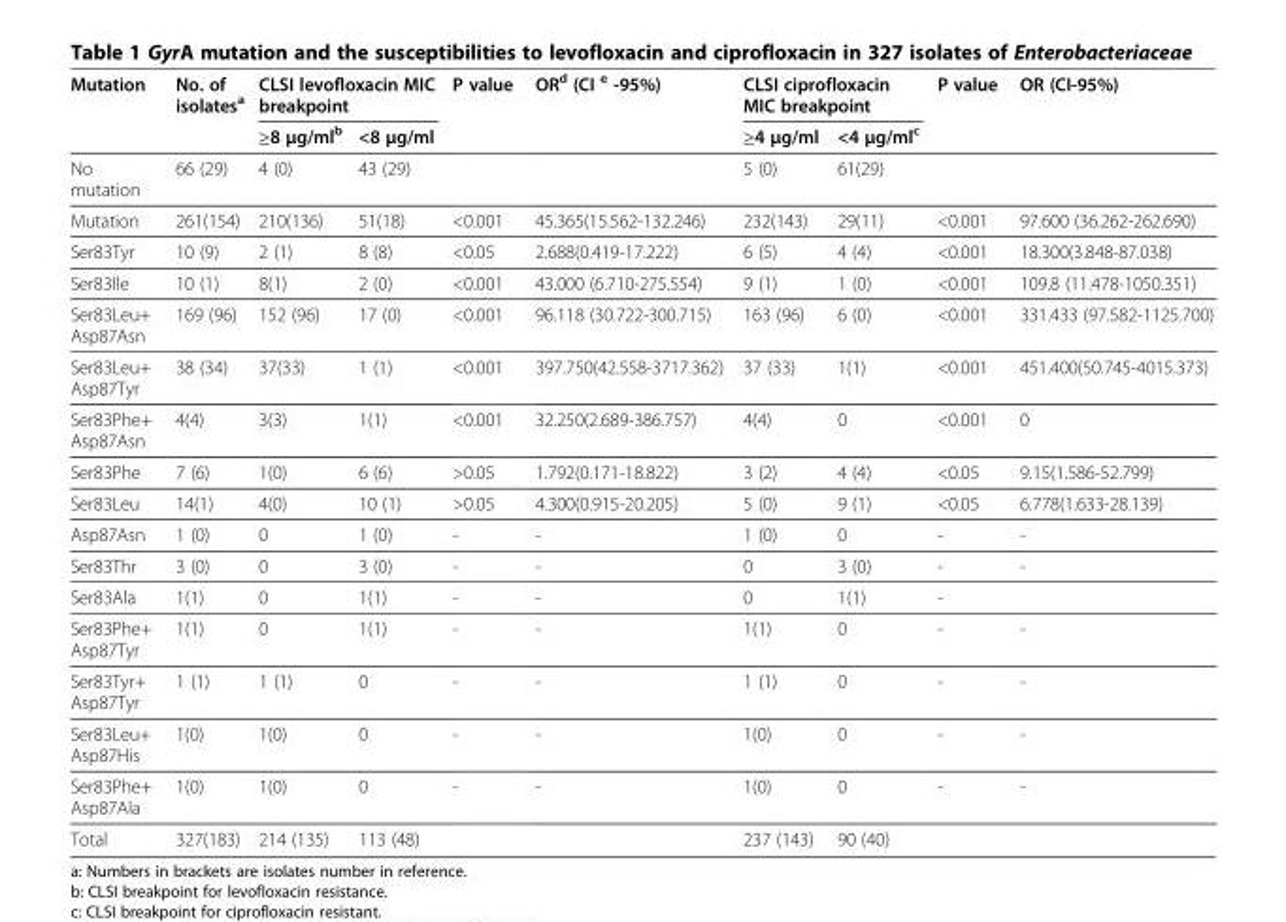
<table><thead><tr><td rowspan="2">Mutation</td><td rowspan="2">No. of isolates<sup>a</sup></td><td colspan="2">CLSI levofloxacin MIC breakpoint</td><td rowspan="2">P value</td><td rowspan="2">OR<sup>d</sup> (CI <sup>e</sup> -95%)</td><td colspan="2">CLSI ciprofloxacin MIC breakpoint</td><td rowspan="2">P value</td><td rowspan="2">OR (CI-95%)</td></tr><tr><td>≥8 μg/ml<sup>b</sup></td><td>&lt;8 μg/ml</td><td>≥4 μg/ml</td><td>&lt;4 μg/ml<sup>c</sup></td></tr></thead><tbody><tr><td>No mutation</td><td>66 (29)</td><td>4 (0)</td><td>43 (29)</td><td></td><td></td><td>5 (0)</td><td>61(29)</td><td></td><td></td></tr><tr><td>Mutation</td><td>261(154)</td><td>210(136)</td><td>51(18)</td><td>&lt;0.001</td><td>45.365(15.562-132.246)</td><td>232(143)</td><td>29(11)</td><td>&lt;0.001</td><td>97.600 (36.262-262.690)</td></tr><tr><td>Ser83Tyr</td><td>10 (9)</td><td>2 (1)</td><td>8 (8)</td><td>&lt;0.05</td><td>2.688(0.419-17.222)</td><td>6 (5)</td><td>4 (4)</td><td>&lt;0.001</td><td>18.300(3.848-87.038)</td></tr><tr><td>Ser83Ile</td><td>10 (1)</td><td>8(1)</td><td>2 (0)</td><td>&lt;0.001</td><td>43.000 (6.710-275.554)</td><td>9 (1)</td><td>1 (0)</td><td>&lt;0.001</td><td>109.8 (11.478-1050.351)</td></tr><tr><td>Ser83Leu+ Asp87Asn</td><td>169 (96)</td><td>152 (96)</td><td>17 (0)</td><td>&lt;0.001</td><td>96.118 (30.722-300.715)</td><td>163 (96)</td><td>6 (0)</td><td>&lt;0.001</td><td>331.433 (97.582-1125.700)</td></tr><tr><td>Ser83Leu+ Asp87Tyr</td><td>38 (34)</td><td>37(33)</td><td>1 (1)</td><td>&lt;0.001</td><td>397.750(42.558-3717.362)</td><td>37 (33)</td><td>1(1)</td><td>&lt;0.001</td><td>451.400(50.745-4015.373)</td></tr><tr><td>Ser83Phe+ Asp87Asn</td><td>4(4)</td><td>3(3)</td><td>1(1)</td><td>&lt;0.001</td><td>32.250(2.689-386.757)</td><td>4(4)</td><td>0</td><td>&lt;0.001</td><td>0</td></tr><tr><td>Ser83Phe</td><td>7 (6)</td><td>1(0)</td><td>6 (6)</td><td>&gt;0.05</td><td>1.792(0.171-18.822)</td><td>3 (2)</td><td>4 (4)</td><td>&lt;0.05</td><td>9.15(1.586-52.799)</td></tr><tr><td>Ser83Leu</td><td>14(1)</td><td>4(0)</td><td>10 (1)</td><td>&gt;0.05</td><td>4.300(0.915-20.205)</td><td>5 (0)</td><td>9 (1)</td><td>&lt;0.05</td><td>6.778(1.633-28.139)</td></tr><tr><td>Asp87Asn</td><td>1 (0)</td><td>0</td><td>1 (0)</td><td>-</td><td>-</td><td>1 (0)</td><td>0</td><td>-</td><td>-</td></tr><tr><td>Ser83Thr</td><td>3 (0)</td><td>0</td><td>3 (0)</td><td>-</td><td>-</td><td>0</td><td>3 (0)</td><td>-</td><td>-</td></tr><tr><td>Ser83Ala</td><td>1(1)</td><td>0</td><td>1(1)</td><td>-</td><td>-</td><td>0</td><td>1(1)</td><td>-</td><td></td></tr><tr><td>Ser83Phe+ Asp87Tyr</td><td>1(1)</td><td>0</td><td>1(1)</td><td>-</td><td>-</td><td>1(1)</td><td>0</td><td>-</td><td>-</td></tr><tr><td>Ser83Tyr+ Asp87Tyr</td><td>1 (1)</td><td>1 (1)</td><td>0</td><td>-</td><td>-</td><td>1 (1)</td><td>0</td><td>-</td><td>-</td></tr><tr><td>Ser83Leu+ Asp87His</td><td>1(0)</td><td>1(0)</td><td>0</td><td>-</td><td>-</td><td>1(0)</td><td>0</td><td>-</td><td>-</td></tr><tr><td>Ser83Phe+ Asp87Ala</td><td>1(0)</td><td>1(0)</td><td>0</td><td>-</td><td>-</td><td>1(0)</td><td>0</td><td>-</td><td>-</td></tr><tr><td>Total</td><td>327(183)</td><td>214 (135)</td><td>113 (48)</td><td></td><td></td><td>237 (143)</td><td>90 (40)</td><td></td><td></td></tr></tbody></table>